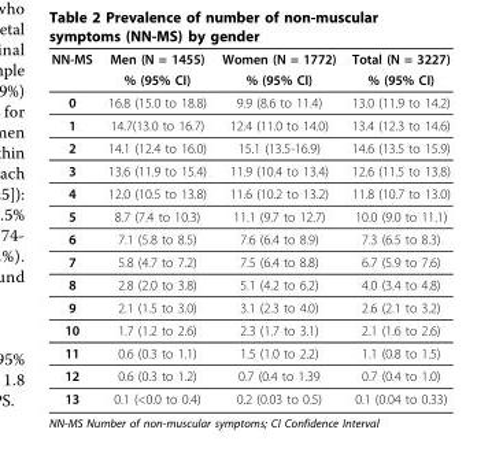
<table><thead><tr><td rowspan="2">NN-MS</td><td rowspan="2">Men (N = 1455) % (95% CI)</td><td rowspan="2">Women (N = 1772) % (95% CI)</td><td rowspan="2">Total (N = 3227) % (95% CI)</td></tr><tr></tr></thead><tbody><tr><td>0</td><td>16.8 (15.0 to 18.8)</td><td>9.9 (8.6 to 11.4)</td><td>13.0 (11.9 to 14.2)</td></tr><tr><td>1</td><td>14.7(13.0 to 16.7)</td><td>12.4 (11.0 to 14.0)</td><td>13.4 (12.3 to 14.6)</td></tr><tr><td>2</td><td>14.1 (12.4 to 16.0)</td><td>15.1 (13.5-16.9)</td><td>14.6 (13.5 to 15.9)</td></tr><tr><td>3</td><td>13.6 (11.9 to 15.4)</td><td>11.9 (10.4 to 13.4)</td><td>12.6 (11.5 to 13.8)</td></tr><tr><td>4</td><td>12.0 (10.5 to 13.8)</td><td>11.6 (10.2 to 13.2)</td><td>11.8 (10.7 to 13.0)</td></tr><tr><td>5</td><td>8.7 (7.4 to 10.3)</td><td>11.1 (9.7 to 12.7)</td><td>10.0 (9.0 to 11.1)</td></tr><tr><td>6</td><td>7.1 (5.8 to 8.5)</td><td>7.6 (6.4 to 8.9)</td><td>7.3 (6.5 to 8.3)</td></tr><tr><td>7</td><td>5.8 (4.7 to 7.2)</td><td>7.5 (6.4 to 8.8)</td><td>6.7 (5.9 to 7.6)</td></tr><tr><td>8</td><td>2.8 (2.0 to 3.8)</td><td>5.1 (4.2 to 6.2)</td><td>4.0 (3.4 to 4.8)</td></tr><tr><td>9</td><td>2.1 (1.5 to 3.0)</td><td>3.1 (2.3 to 4.0)</td><td>2.6 (2.1 to 3.2)</td></tr><tr><td>10</td><td>1.7 (1.2 to 2.6)</td><td>2.3 (1.7 to 3.1)</td><td>2.1 (1.6 to 2.6)</td></tr><tr><td>11</td><td>0.6 (0.3 to 1.1)</td><td>1.5 (1.0 to 2.2)</td><td>1.1 (0.8 to 1.5)</td></tr><tr><td>12</td><td>0.6 (0.3 to 1.2)</td><td>0.7 (0.4 to 1.39</td><td>0.7 (0.4 to 1.0)</td></tr><tr><td>13</td><td>0.1 (&lt;0.0 to 0.4)</td><td>0.2 (0.03 to 0.5)</td><td>0.1 (0.04 to 0.33)</td></tr></tbody></table>